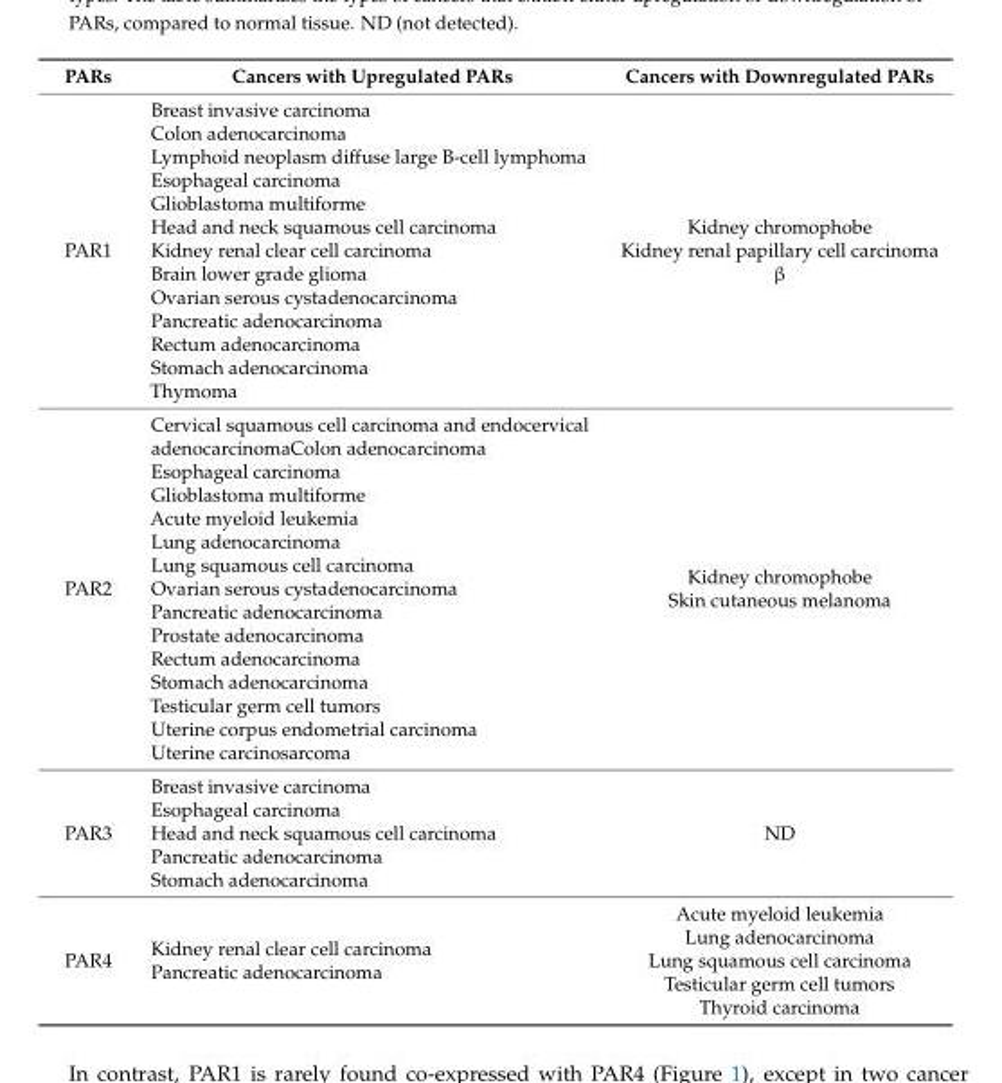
<table><thead><tr><td>PARs</td><td>Cancers with Upregulated PARs</td><td>Cancers with Downregulated PARs</td></tr></thead><tbody><tr><td>PAR1</td><td>Breast invasive carcinoma Colon adenocarcinoma Lymphoid neoplasm diffuse large B-cell lymphoma Esophageal carcinoma Glioblastoma multiforme Head and neck squamous cell carcinoma Kidney renal clear cell carcinoma Brain lower grade glioma Ovarian serous cystadenocarcinoma Pancreatic adenocarcinoma Rectum adenocarcinoma Stomach adenocarcinoma Thymoma</td><td>Kidney chromophobe Kidney renal papillary cell carcinoma β</td></tr><tr><td>PAR2</td><td>Cervical squamous cell carcinoma and endocervical adenocarcinomaColon adenocarcinoma Esophageal carcinoma Glioblastoma multiforme Acute myeloid leukemia Lung adenocarcinoma Lung squamous cell carcinoma Ovarian serous cystadenocarcinoma Pancreatic adenocarcinoma Prostate adenocarcinoma Rectum adenocarcinoma Stomach adenocarcinoma Testicular germ cell tumors Uterine corpus endometrial carcinoma Uterine carcinosarcoma</td><td>Kidney chromophobe Skin cutaneous melanoma</td></tr><tr><td>PAR3</td><td>Breast invasive carcinoma Esophageal carcinoma Head and neck squamous cell carcinoma Pancreatic adenocarcinoma Stomach adenocarcinoma</td><td>ND</td></tr><tr><td>PAR4</td><td>Kidney renal clear cell carcinoma Pancreatic adenocarcinoma</td><td>Acute myeloid leukemia Lung adenocarcinoma Lung squamous cell carcinoma Testicular germ cell tumors Thyroid carcinoma</td></tr></tbody></table>